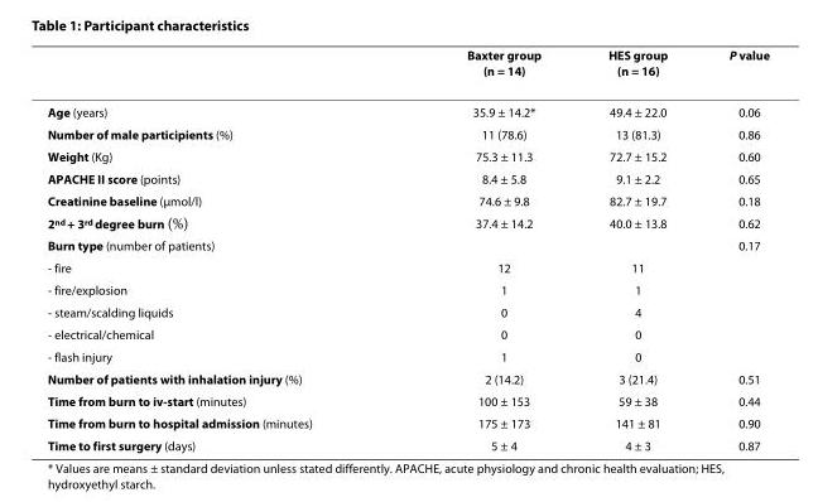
<table><thead><tr><td></td><td>Baxter group (n = 14)</td><td>HES group (n = 16)</td><td>P value</td></tr></thead><tbody><tr><td>Age (years)</td><td>35.9 ± 14.2*</td><td>49.4 ± 22.0</td><td>0.06</td></tr><tr><td>Number of male participients (%)</td><td>11 (78.6)</td><td>13 (81.3)</td><td>0.86</td></tr><tr><td>Weight (Kg)</td><td>75.3 ± 11.3</td><td>72.7 ± 15.2</td><td>0.60</td></tr><tr><td>APACHE II score (points)</td><td>8.4 ± 5.8</td><td>9.1 ± 2.2</td><td>0.65</td></tr><tr><td>Creatinine baseline (μmol/l)</td><td>74.6 ± 9.8</td><td>82.7 ± 19.7</td><td>0.18</td></tr><tr><td>2<sup>nd</sup> + 3<sup>rd</sup> degree burn (%)</td><td>37.4 ± 14.2</td><td>40.0 ± 13.8</td><td>0.62</td></tr><tr><td>Burn type (number of patients)</td><td></td><td></td><td>0.17</td></tr><tr><td>- fire</td><td>12</td><td>11</td><td></td></tr><tr><td>- fire/explosion</td><td>1</td><td>1</td><td></td></tr><tr><td>- steam/scalding liquids</td><td>0</td><td>4</td><td></td></tr><tr><td>- electrical/chemical</td><td>0</td><td>0</td><td></td></tr><tr><td>- flash injury</td><td>1</td><td>0</td><td></td></tr><tr><td>Number of patients with inhalation injury (%)</td><td>2 (14.2)</td><td>3 (21.4)</td><td>0.51</td></tr><tr><td>Time from burn to iv-start (minutes)</td><td>100 ± 153</td><td>59 ± 38</td><td>0.44</td></tr><tr><td>Time from burn to hospital admission (minutes)</td><td>175 ± 173</td><td>141 ± 81</td><td>0.90</td></tr><tr><td>Time to first surgery (days)</td><td>5 ± 4</td><td>4 ± 3</td><td>0.87</td></tr></tbody></table>